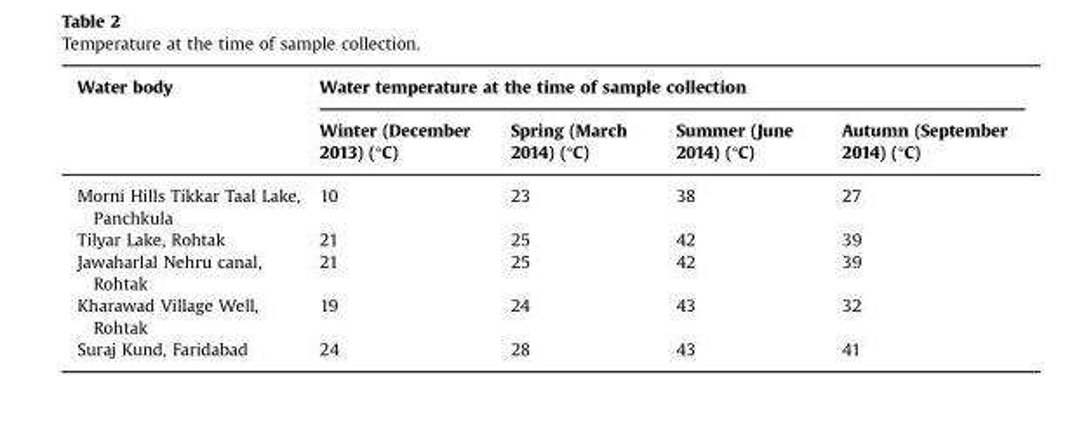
<table><thead><tr><td rowspan="2">Water body</td><td colspan="4">Water temperature at the time of sample collection</td></tr><tr><td>Winter (December 2013) (°C)</td><td>Spring (March 2014) (°C)</td><td>Summer (June 2014) (°C)</td><td>Autumn (September 2014) (°C)</td></tr></thead><tbody><tr><td>Morni Hills Tikkar Taal Lake, Panchkula</td><td>10</td><td>23</td><td>38</td><td>27</td></tr><tr><td>Tilyar Lake, Rohtak</td><td>21</td><td>25</td><td>42</td><td>39</td></tr><tr><td>Jawaharlal Nehru canal, Rohtak</td><td>21</td><td>25</td><td>42</td><td>39</td></tr><tr><td>Kharawad Village Well, Rohtak</td><td>19</td><td>24</td><td>43</td><td>32</td></tr><tr><td>Suraj Kund, Faridabad</td><td>24</td><td>28</td><td>43</td><td>41</td></tr></tbody></table>